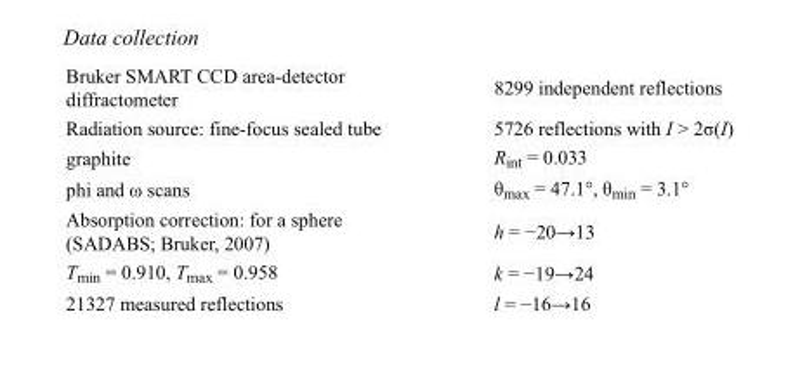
<table><tbody><tr><td>Bruker SMART CCD area-detector diffractometer</td><td>8299 independent reflections</td></tr><tr><td>Radiation source: fine-focus sealed tube</td><td>5726 reflections with I &gt; 2σ(I)</td></tr><tr><td>graphite</td><td>R<sub>int</sub> = 0.033</td></tr><tr><td>phi and ω scans</td><td>θ<sub>max</sub> = 47.1°, θ<sub>min</sub> = 3.1°</td></tr><tr><td>Absorption correction: for a sphere (SADABS; Bruker, 2007)</td><td>h = −20→13</td></tr><tr><td>T<sub>min</sub> = 0.910, T<sub>max</sub> = 0.958</td><td>k = −19→24</td></tr><tr><td>21327 measured reflections</td><td>l = −16→16</td></tr></tbody></table>